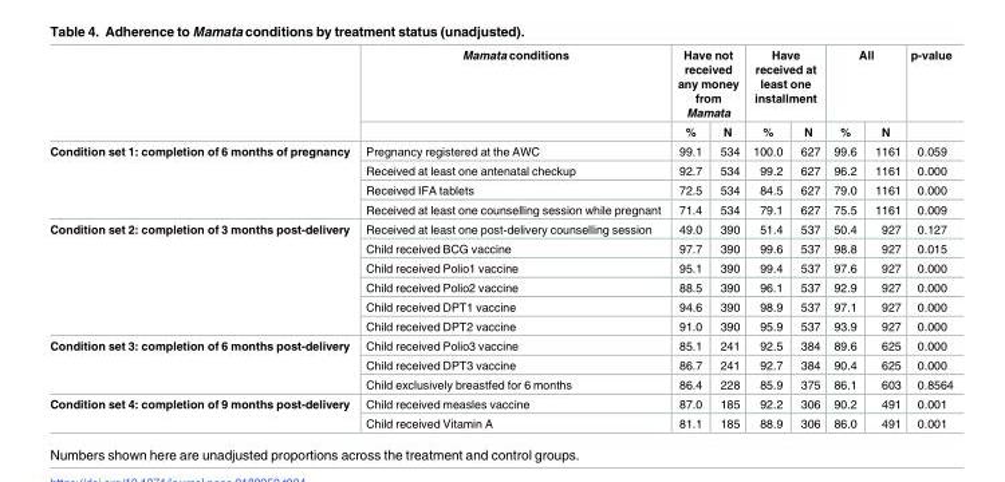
<table><thead><tr><td rowspan="2"></td><td rowspan="2">Mamata conditions</td><td colspan="2">Have not received any money from Mamata</td><td colspan="2">Have received at least one installment</td><td colspan="2">All</td><td rowspan="2">p-value</td></tr><tr><td>%</td><td>N</td><td>%</td><td>N</td><td>%</td><td>N</td></tr></thead><tbody><tr><td rowspan="4">Condition set 1: completion of 6 months of pregnancy</td><td>Pregnancy registered at the AWC</td><td>99.1</td><td>534</td><td>100.0</td><td>627</td><td>99.6</td><td>1161</td><td>0.059</td></tr><tr><td>Received at least one antenatal checkup</td><td>92.7</td><td>534</td><td>99.2</td><td>627</td><td>96.2</td><td>1161</td><td>0.000</td></tr><tr><td>Received IFA tablets</td><td>72.5</td><td>534</td><td>84.5</td><td>627</td><td>79.0</td><td>1161</td><td>0.000</td></tr><tr><td>Received at least one counselling session while pregnant</td><td>71.4</td><td>534</td><td>79.1</td><td>627</td><td>75.5</td><td>1161</td><td>0.009</td></tr><tr><td rowspan="6">Condition set 2: completion of 3 months post-delivery</td><td>Received at least one post-delivery counselling session</td><td>49.0</td><td>390</td><td>51.4</td><td>537</td><td>50.4</td><td>927</td><td>0.127</td></tr><tr><td>Child received BCG vaccine</td><td>97.7</td><td>390</td><td>99.6</td><td>537</td><td>98.8</td><td>927</td><td>0.015</td></tr><tr><td>Child received Polio1 vaccine</td><td>95.1</td><td>390</td><td>99.4</td><td>537</td><td>97.6</td><td>927</td><td>0.000</td></tr><tr><td>Child received Polio2 vaccine</td><td>88.5</td><td>390</td><td>96.1</td><td>537</td><td>92.9</td><td>927</td><td>0.000</td></tr><tr><td>Child received DPT1 vaccine</td><td>94.6</td><td>390</td><td>98.9</td><td>537</td><td>97.1</td><td>927</td><td>0.000</td></tr><tr><td>Child received DPT2 vaccine</td><td>91.0</td><td>390</td><td>95.9</td><td>537</td><td>93.9</td><td>927</td><td>0.000</td></tr><tr><td rowspan="3">Condition set 3: completion of 6 months post-delivery</td><td>Child received Polio3 vaccine</td><td>85.1</td><td>241</td><td>92.5</td><td>384</td><td>89.6</td><td>625</td><td>0.000</td></tr><tr><td>Child received DPT3 vaccine</td><td>86.7</td><td>241</td><td>92.7</td><td>384</td><td>90.4</td><td>625</td><td>0.000</td></tr><tr><td>Child exclusively breastfed for 6 months</td><td>86.4</td><td>228</td><td>85.9</td><td>375</td><td>86.1</td><td>603</td><td>0.8564</td></tr><tr><td rowspan="2">Condition set 4: completion of 9 months post-delivery</td><td>Child received measles vaccine</td><td>87.0</td><td>185</td><td>92.2</td><td>306</td><td>90.2</td><td>491</td><td>0.001</td></tr><tr><td>Child received Vitamin A</td><td>81.1</td><td>185</td><td>88.9</td><td>306</td><td>86.0</td><td>491</td><td>0.001</td></tr></tbody></table>